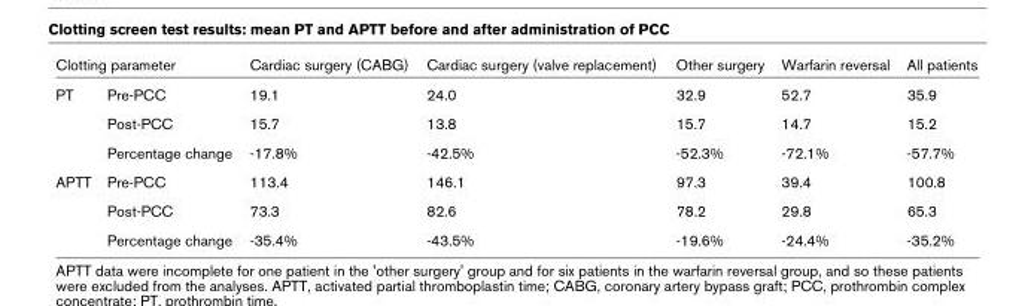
<table><thead><tr><td colspan="2">Clotting parameter</td><td rowspan="2">Cardiac surgery (CABG) 19.1</td><td rowspan="2">Cardiac surgery (valve replacement) 24.0</td><td rowspan="2">Other surgery 32.9</td><td rowspan="2">Warfarin reversal 52.7</td><td rowspan="2">All patients 35.9</td></tr><tr><td>PT</td><td>Pre-PCC</td></tr></thead><tbody><tr><td></td><td>Post-PCC</td><td>15.7</td><td>13.8</td><td>15.7</td><td>14.7</td><td>15.2</td></tr><tr><td></td><td>Percentage change</td><td>-17.8%</td><td>-42.5%</td><td>-52.3%</td><td>-72.1%</td><td>-57.7%</td></tr><tr><td rowspan="3">APTT</td><td>Pre-PCC</td><td>113.4</td><td>146.1</td><td>97.3</td><td>39.4</td><td>100.8</td></tr><tr><td>Post-PCC</td><td>73.3</td><td>82.6</td><td>78.2</td><td>29.8</td><td>65.3</td></tr><tr><td>Percentage change</td><td>-35.4%</td><td>-43.5%</td><td>-19.6%</td><td>-24.4%</td><td>-35.2%</td></tr></tbody></table>